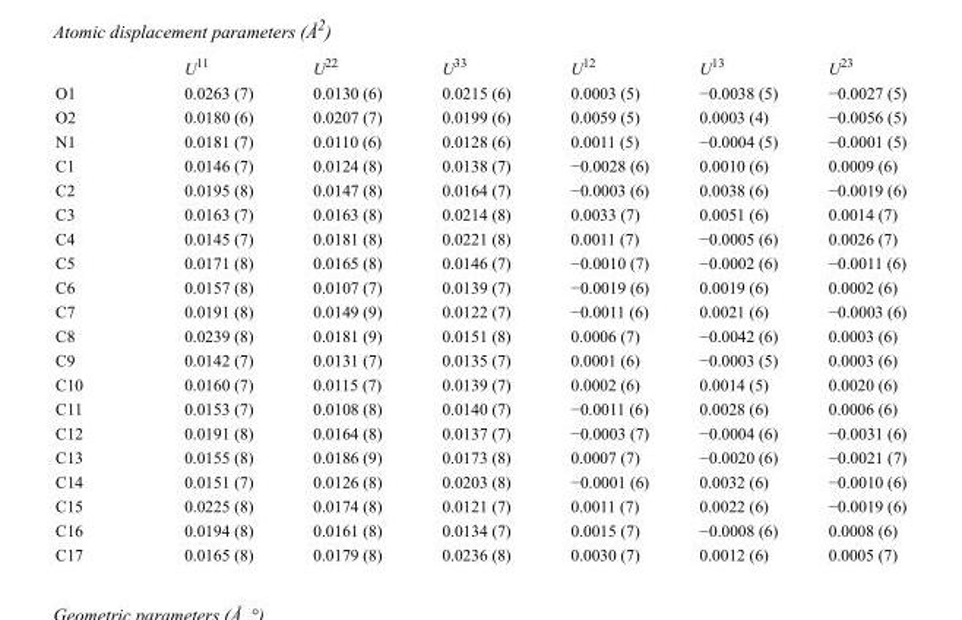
<table><thead><tr><td></td><td>U<sup>11</sup></td><td>U<sup>22</sup></td><td>U<sup>33</sup></td><td>U<sup>12</sup></td><td>U<sup>13</sup></td><td>U<sup>23</sup></td></tr></thead><tbody><tr><td>O1</td><td>0.0263 (7)</td><td>0.0130 (6)</td><td>0.0215 (6)</td><td>0.0003 (5)</td><td>−0.0038 (5)</td><td>−0.0027 (5)</td></tr><tr><td>O2</td><td>0.0180 (6)</td><td>0.0207 (7)</td><td>0.0199 (6)</td><td>0.0059 (5)</td><td>0.0003 (4)</td><td>−0.0056 (5)</td></tr><tr><td>N1</td><td>0.0181 (7)</td><td>0.0110 (6)</td><td>0.0128 (6)</td><td>0.0011 (5)</td><td>−0.0004 (5)</td><td>−0.0001 (5)</td></tr><tr><td>C1</td><td>0.0146 (7)</td><td>0.0124 (8)</td><td>0.0138 (7)</td><td>−0.0028 (6)</td><td>0.0010 (6)</td><td>0.0009 (6)</td></tr><tr><td>C2</td><td>0.0195 (8)</td><td>0.0147 (8)</td><td>0.0164 (7)</td><td>−0.0003 (6)</td><td>0.0038 (6)</td><td>−0.0019 (6)</td></tr><tr><td>C3</td><td>0.0163 (7)</td><td>0.0163 (8)</td><td>0.0214 (8)</td><td>0.0033 (7)</td><td>0.0051 (6)</td><td>0.0014 (7)</td></tr><tr><td>C4</td><td>0.0145 (7)</td><td>0.0181 (8)</td><td>0.0221 (8)</td><td>0.0011 (7)</td><td>−0.0005 (6)</td><td>0.0026 (7)</td></tr><tr><td>C5</td><td>0.0171 (8)</td><td>0.0165 (8)</td><td>0.0146 (7)</td><td>−0.0010 (7)</td><td>−0.0002 (6)</td><td>−0.0011 (6)</td></tr><tr><td>C6</td><td>0.0157 (8)</td><td>0.0107 (7)</td><td>0.0139 (7)</td><td>−0.0019 (6)</td><td>0.0019 (6)</td><td>0.0002 (6)</td></tr><tr><td>C7</td><td>0.0191 (8)</td><td>0.0149 (9)</td><td>0.0122 (7)</td><td>−0.0011 (6)</td><td>0.0021 (6)</td><td>−0.0003 (6)</td></tr><tr><td>C8</td><td>0.0239 (8)</td><td>0.0181 (9)</td><td>0.0151 (8)</td><td>0.0006 (7)</td><td>−0.0042 (6)</td><td>0.0003 (6)</td></tr><tr><td>C9</td><td>0.0142 (7)</td><td>0.0131 (7)</td><td>0.0135 (7)</td><td>0.0001 (6)</td><td>−0.0003 (5)</td><td>0.0003 (6)</td></tr><tr><td>C10</td><td>0.0160 (7)</td><td>0.0115 (7)</td><td>0.0139 (7)</td><td>0.0002 (6)</td><td>0.0014 (5)</td><td>0.0020 (6)</td></tr><tr><td>C11</td><td>0.0153 (7)</td><td>0.0108 (8)</td><td>0.0140 (7)</td><td>−0.0011 (6)</td><td>0.0028 (6)</td><td>0.0006 (6)</td></tr><tr><td>C12</td><td>0.0191 (8)</td><td>0.0164 (8)</td><td>0.0137 (7)</td><td>−0.0003 (7)</td><td>−0.0004 (6)</td><td>−0.0031 (6)</td></tr><tr><td>C13</td><td>0.0155 (8)</td><td>0.0186 (9)</td><td>0.0173 (8)</td><td>0.0007 (7)</td><td>−0.0020 (6)</td><td>−0.0021 (7)</td></tr><tr><td>C14</td><td>0.0151 (7)</td><td>0.0126 (8)</td><td>0.0203 (8)</td><td>−0.0001 (6)</td><td>0.0032 (6)</td><td>−0.0010 (6)</td></tr><tr><td>C15</td><td>0.0225 (8)</td><td>0.0174 (8)</td><td>0.0121 (7)</td><td>0.0011 (7)</td><td>0.0022 (6)</td><td>−0.0019 (6)</td></tr><tr><td>C16</td><td>0.0194 (8)</td><td>0.0161 (8)</td><td>0.0134 (7)</td><td>0.0015 (7)</td><td>−0.0008 (6)</td><td>0.0008 (6)</td></tr><tr><td>C17</td><td>0.0165 (8)</td><td>0.0179 (8)</td><td>0.0236 (8)</td><td>0.0030 (7)</td><td>0.0012 (6)</td><td>0.0005 (7)</td></tr></tbody></table>